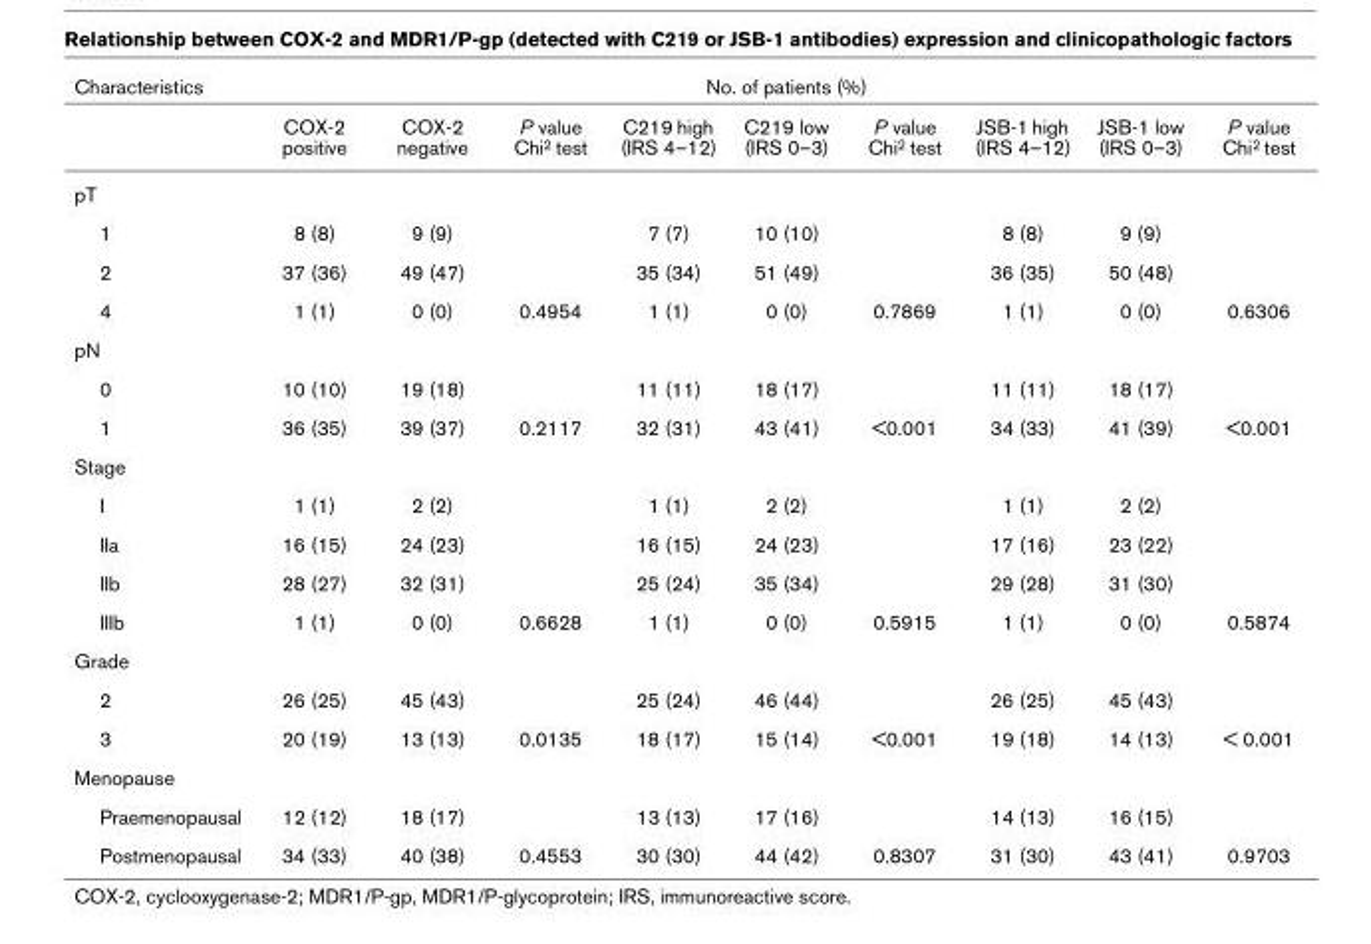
<table><thead><tr><td rowspan="2">Characteristics</td><td colspan="9">No. of patients (%)</td></tr><tr><td>COX-2 positive</td><td>COX-2 negative</td><td>P value Chi2 test</td><td>C219 high (IRS 4–12)</td><td>C219 low (IRS 0–3)</td><td>P value Chi2 test</td><td>JSB-1 high (IRS 4–12)</td><td>JSB-1 low (IRS 0–3)</td><td>P value Chi2 test</td></tr></thead><tbody><tr><td colspan="10">pT</td></tr><tr><td>1</td><td>8 (8)</td><td>9 (9)</td><td></td><td>7 (7)</td><td>10 (10)</td><td></td><td>8 (8)</td><td>9 (9)</td><td></td></tr><tr><td>2</td><td>37 (36)</td><td>49 (47)</td><td></td><td>35 (34)</td><td>51 (49)</td><td></td><td>36 (35)</td><td>50 (48)</td><td></td></tr><tr><td>4</td><td>1 (1)</td><td>0 (0)</td><td>0.4954</td><td>1 (1)</td><td>0 (0)</td><td>0.7869</td><td>1 (1)</td><td>0 (0)</td><td>0.6306</td></tr><tr><td colspan="10">pN</td></tr><tr><td>0</td><td>10 (10)</td><td>19 (18)</td><td></td><td>11 (11)</td><td>18 (17)</td><td></td><td>11 (11)</td><td>18 (17)</td><td></td></tr><tr><td>1</td><td>36 (35)</td><td>39 (37)</td><td>0.2117</td><td>32 (31)</td><td>43 (41)</td><td>&lt;0.001</td><td>34 (33)</td><td>41 (39)</td><td>&lt;0.001</td></tr><tr><td colspan="10">Stage</td></tr><tr><td>I</td><td>1 (1)</td><td>2 (2)</td><td></td><td>1 (1)</td><td>2 (2)</td><td></td><td>1 (1)</td><td>2 (2)</td><td></td></tr><tr><td>IIa</td><td>16 (15)</td><td>24 (23)</td><td></td><td>16 (15)</td><td>24 (23)</td><td></td><td>17 (16)</td><td>23 (22)</td><td></td></tr><tr><td>IIb</td><td>28 (27)</td><td>32 (31)</td><td></td><td>25 (24)</td><td>35 (34)</td><td></td><td>29 (28)</td><td>31 (30)</td><td></td></tr><tr><td>IIIb</td><td>1 (1)</td><td>0 (0)</td><td>0.6628</td><td>1 (1)</td><td>0 (0)</td><td>0.5915</td><td>1 (1)</td><td>0 (0)</td><td>0.5874</td></tr><tr><td colspan="10">Grade</td></tr><tr><td>2</td><td>26 (25)</td><td>45 (43)</td><td></td><td>25 (24)</td><td>46 (44)</td><td></td><td>26 (25)</td><td>45 (43)</td><td></td></tr><tr><td>3</td><td>20 (19)</td><td>13 (13)</td><td>0.0135</td><td>18 (17)</td><td>15 (14)</td><td>&lt;0.001</td><td>19 (18)</td><td>14 (13)</td><td>&lt; 0.001</td></tr><tr><td colspan="10">Menopause</td></tr><tr><td>Praemenopausal</td><td>12 (12)</td><td>18 (17)</td><td></td><td>13 (13)</td><td>17 (16)</td><td></td><td>14 (13)</td><td>16 (15)</td><td></td></tr><tr><td>Postmenopausal</td><td>34 (33)</td><td>40 (38)</td><td>0.4553</td><td>30 (30)</td><td>44 (42)</td><td>0.8307</td><td>31 (30)</td><td>43 (41)</td><td>0.9703</td></tr></tbody></table>